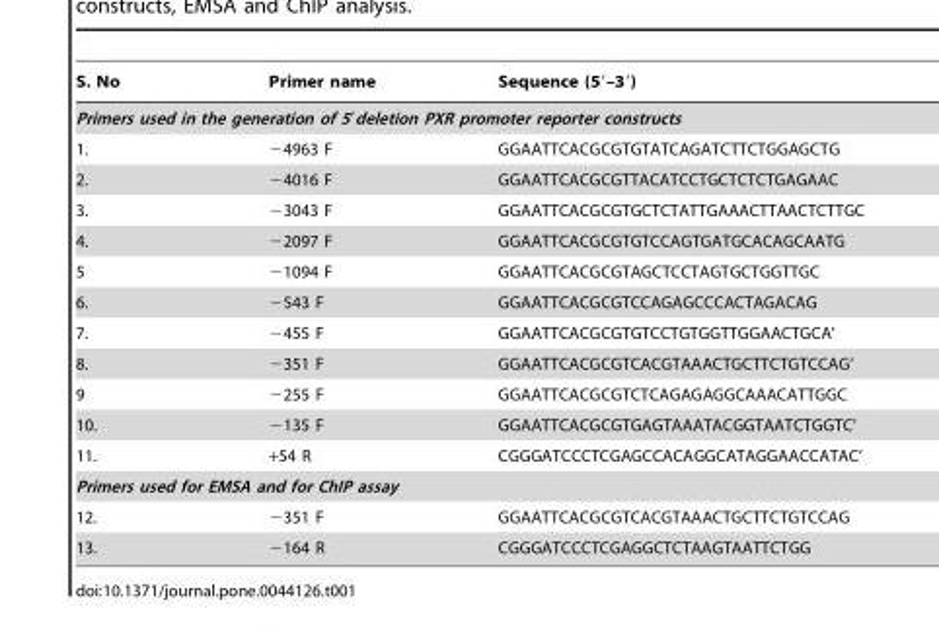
<table><thead><tr><td>S. No</td><td>Primer name</td><td>Sequence (5′–3′)</td></tr></thead><tbody><tr><td colspan="3">Primers used in the generation of 5′deletion PXR promoter reporter constructs</td></tr><tr><td>1.</td><td>−4963 F</td><td>GGAATTCACGCGTGTATCAGATCTTCTGGAGCTG</td></tr><tr><td>2.</td><td>−4016 F</td><td>GGAATTCACGCGTTACATCCTGCTCTCTGAGAAC</td></tr><tr><td>3.</td><td>−3043 F</td><td>GGAATTCACGCGTGCTCTATTGAAACTTAACTCTTGC</td></tr><tr><td>4.</td><td>−2097 F</td><td>GGAATTCACGCGTGTCCAGTGATGCACAGCAATG</td></tr><tr><td>5</td><td>−1094 F</td><td>GGAATTCACGCGTAGCTCCTAGTGCTGGTTGC</td></tr><tr><td>6.</td><td>−543 F</td><td>GGAATTCACGCGTCCAGAGCCCACTAGACAG</td></tr><tr><td>7.</td><td>−455 F</td><td>GGAATTCACGCGTGTCCTGTGGTTGGAACTGCA’</td></tr><tr><td>8.</td><td>−351 F</td><td>GGAATTCACGCGTCACGTAAACTGCTTCTGTCCAG’</td></tr><tr><td>9</td><td>−255 F</td><td>GGAATTCACGCGTCTCAGAGAGGCAAACATTGGC</td></tr><tr><td>10.</td><td>−135 F</td><td>GGAATTCACGCGTGAGTAAATACGGTAATCTGGTC’</td></tr><tr><td>11.</td><td>+54 R</td><td>CGGGATCCCTCGAGCCACAGGCATAGGAACCATAC’</td></tr><tr><td colspan="3">Primers used for EMSA and for ChIP assay</td></tr><tr><td>12.</td><td>−351 F</td><td>GGAATTCACGCGTCACGTAAACTGCTTCTGTCCAG</td></tr><tr><td>13.</td><td>−164 R</td><td>CGGGATCCCTCGAGGCTCTAAGTAATTCTGG</td></tr></tbody></table>